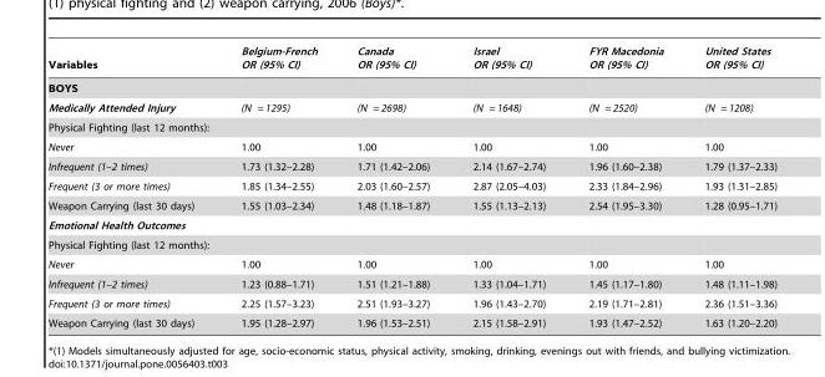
<table><thead><tr><td>Variables</td><td>Belgium-French OR (95% CI)</td><td>Canada OR (95% CI)</td><td>Israel OR (95% CI)</td><td>FYR Macedonia OR (95% CI)</td><td>United States OR (95% CI)</td></tr></thead><tbody><tr><td colspan="6">BOYS</td></tr><tr><td>Medically Attended Injury</td><td>(N = 1295)</td><td>(N = 2698)</td><td>(N = 1648)</td><td>(N = 2520)</td><td>(N = 1208)</td></tr><tr><td colspan="6">Physical Fighting (last 12 months):</td></tr><tr><td>Never</td><td>1.00</td><td>1.00</td><td>1.00</td><td>1.00</td><td>1.00</td></tr><tr><td>Infrequent (1–2 times)</td><td>1.73 (1.32–2.28)</td><td>1.71 (1.42–2.06)</td><td>2.14 (1.67–2.74)</td><td>1.96 (1.60–2.38)</td><td>1.79 (1.37–2.33)</td></tr><tr><td>Frequent (3 or more times)</td><td>1.85 (1.34–2.55)</td><td>2.03 (1.60–2.57)</td><td>2.87 (2.05–4.03)</td><td>2.33 (1.84–2.96)</td><td>1.93 (1.31–2.85)</td></tr><tr><td>Weapon Carrying (last 30 days)</td><td>1.55 (1.03–2.34)</td><td>1.48 (1.18–1.87)</td><td>1.55 (1.13–2.13)</td><td>2.54 (1.95–3.30)</td><td>1.28 (0.95–1.71)</td></tr><tr><td colspan="6">Emotional Health Outcomes</td></tr><tr><td colspan="6">Physical Fighting (last 12 months):</td></tr><tr><td>Never</td><td>1.00</td><td>1.00</td><td>1.00</td><td>1.00</td><td>1.00</td></tr><tr><td>Infrequent (1–2 times)</td><td>1.23 (0.88–1.71)</td><td>1.51 (1.21–1.88)</td><td>1.33 (1.04–1.71)</td><td>1.45 (1.17–1.80)</td><td>1.48 (1.11–1.98)</td></tr><tr><td>Frequent (3 or more times)</td><td>2.25 (1.57–3.23)</td><td>2.51 (1.93–3.27)</td><td>1.96 (1.43–2.70)</td><td>2.19 (1.71–2.81)</td><td>2.36 (1.51–3.36)</td></tr><tr><td>Weapon Carrying (last 30 days)</td><td>1.95 (1.28–2.97)</td><td>1.96 (1.53–2.51)</td><td>2.15 (1.58–2.91)</td><td>1.93 (1.47–2.52)</td><td>1.63 (1.20–2.20)</td></tr></tbody></table>